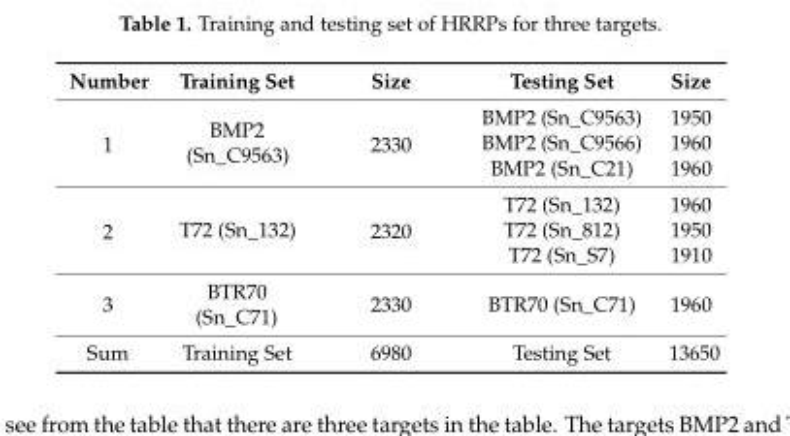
<table><thead><tr><td>Number</td><td>Training Set</td><td>Size</td><td>Testing Set</td><td>Size</td></tr></thead><tbody><tr><td rowspan="3">1</td><td rowspan="3">BMP2 (Sn_C9563)</td><td rowspan="3">2330</td><td>BMP2 (Sn_C9563)</td><td>1950</td></tr><tr><td>BMP2 (Sn_C9566)</td><td>1960</td></tr><tr><td>BMP2 (Sn_C21)</td><td>1960</td></tr><tr><td rowspan="3">2</td><td rowspan="3">T72 (Sn_132)</td><td rowspan="3">2320</td><td>T72 (Sn_132)</td><td>1960</td></tr><tr><td>T72 (Sn_812)</td><td>1950</td></tr><tr><td>T72 (Sn_S7)</td><td>1910</td></tr><tr><td>3</td><td>BTR70 (Sn_C71)</td><td>2330</td><td>BTR70 (Sn_C71)</td><td>1960</td></tr><tr><td>Sum</td><td>Training Set</td><td>6980</td><td>Testing Set</td><td>13650</td></tr></tbody></table>